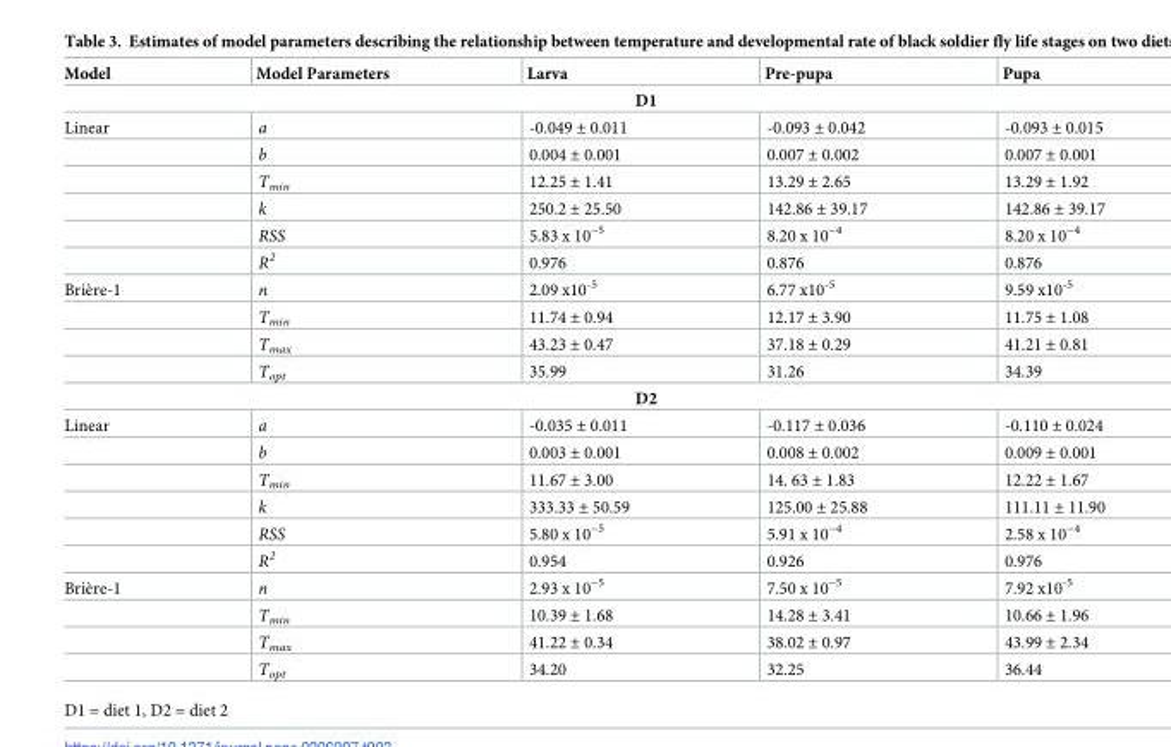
<table><thead><tr><td>Model</td><td>Model Parameters</td><td>Larva</td><td>Pre-pupa</td><td>Pupa</td></tr></thead><tbody><tr><td colspan="5">D1</td></tr><tr><td rowspan="6">Linear</td><td>a</td><td>-0.049 ± 0.011</td><td>-0.093 ± 0.042</td><td>-0.093 ± 0.015</td></tr><tr><td>b</td><td>0.004 ± 0.001</td><td>0.007 ± 0.002</td><td>0.007 ± 0.001</td></tr><tr><td>T<sub>min</sub></td><td>12.25 ± 1.41</td><td>13.29 ± 2.65</td><td>13.29 ± 1.92</td></tr><tr><td>k</td><td>250.2 ± 25.50</td><td>142.86 ± 39.17</td><td>142.86 ± 39.17</td></tr><tr><td>RSS</td><td>5.83 x 10<sup>−5</sup></td><td>8.20 x 10<sup>−4</sup></td><td>8.20 x 10<sup>−4</sup></td></tr><tr><td>R<sup>2</sup></td><td>0.976</td><td>0.876</td><td>0.876</td></tr><tr><td rowspan="4">Brière-1</td><td>n</td><td>2.09 x10<sup>-5</sup></td><td>6.77 x10<sup>-5</sup></td><td>9.59 x10<sup>-5</sup></td></tr><tr><td>T<sub>min</sub></td><td>11.74 ± 0.94</td><td>12.17 ± 3.90</td><td>11.75 ± 1.08</td></tr><tr><td>T<sub>max</sub></td><td>43.23 ± 0.47</td><td>37.18 ± 0.29</td><td>41.21 ± 0.81</td></tr><tr><td>T<sub>opt</sub></td><td>35.99</td><td>31.26</td><td>34.39</td></tr><tr><td colspan="5">D2</td></tr><tr><td rowspan="6">Linear</td><td>a</td><td>-0.035 ± 0.011</td><td>-0.117 ± 0.036</td><td>-0.110 ± 0.024</td></tr><tr><td>b</td><td>0.003 ± 0.001</td><td>0.008 ± 0.002</td><td>0.009 ± 0.001</td></tr><tr><td>T<sub>min</sub></td><td>11.67 ± 3.00</td><td>14. 63 ± 1.83</td><td>12.22 ± 1.67</td></tr><tr><td>k</td><td>333.33 ± 50.59</td><td>125.00 ± 25.88</td><td>111.11 ± 11.90</td></tr><tr><td>RSS</td><td>5.80 x 10<sup>−5</sup></td><td>5.91 x 10<sup>−4</sup></td><td>2.58 x 10<sup>−4</sup></td></tr><tr><td>R<sup>2</sup></td><td>0.954</td><td>0.926</td><td>0.976</td></tr><tr><td rowspan="4">Brière-1</td><td>n</td><td>2.93 x 10<sup>−5</sup></td><td>7.50 x 10<sup>−5</sup></td><td>7.92 x10<sup>-5</sup></td></tr><tr><td>T<sub>min</sub></td><td>10.39 ± 1.68</td><td>14.28 ± 3.41</td><td>10.66 ± 1.96</td></tr><tr><td>T<sub>max</sub></td><td>41.22 ± 0.34</td><td>38.02 ± 0.97</td><td>43.99 ± 2.34</td></tr><tr><td>T<sub>opt</sub></td><td>34.20</td><td>32.25</td><td>36.44</td></tr></tbody></table>